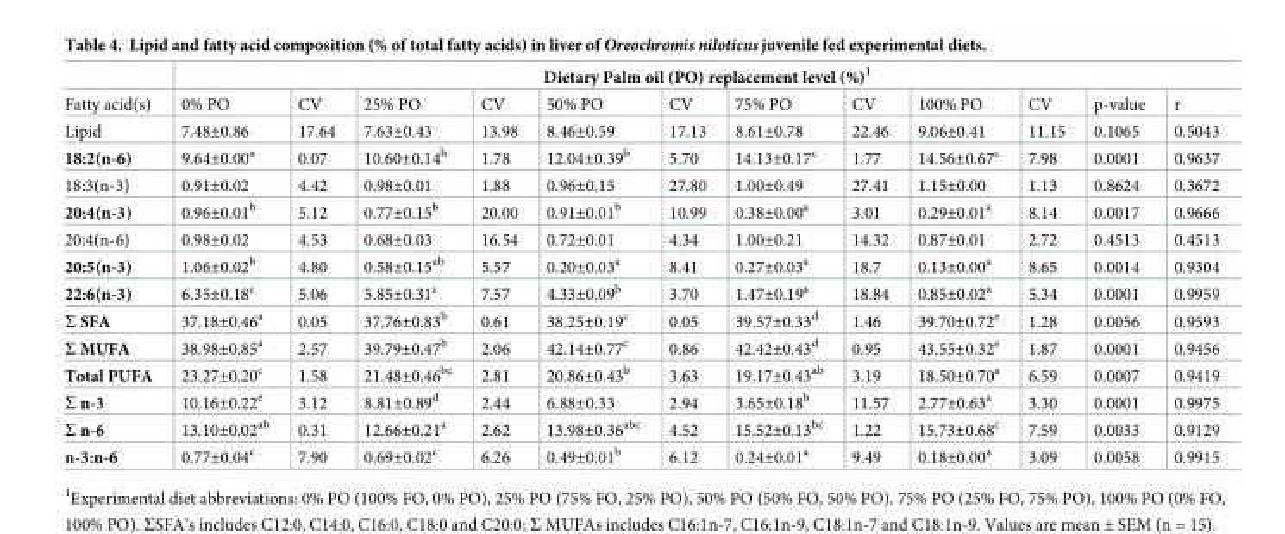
<table><thead><tr><td rowspan="2">Fatty acid(s)</td><td colspan="12">Dietary Palm oil (PO) replacement level (%)<sup>1</sup></td></tr><tr><td>0% PO</td><td>CV</td><td>25% PO</td><td>CV</td><td>50% PO</td><td>CV</td><td>75% PO</td><td>CV</td><td>100% PO</td><td>CV</td><td>p-value</td><td>r</td></tr></thead><tbody><tr><td>Lipid</td><td>7.48±0.86</td><td>17.64</td><td>7.63±0.43</td><td>13.98</td><td>8.46±0.59</td><td>17.13</td><td>8.61±0.78</td><td>22.46</td><td>9.06±0.41</td><td>11.15</td><td>0.1065</td><td>0.5043</td></tr><tr><td>18:2(n-6)</td><td>9.64±0.00<sup>a</sup></td><td>0.07</td><td>10.60±0.14<sup>b</sup></td><td>1.78</td><td>12.04±0.39<sup>b</sup></td><td>5.70</td><td>14.13±0.17<sup>c</sup></td><td>1.77</td><td>14.56±0.67<sup>c</sup></td><td>7.98</td><td>0.0001</td><td>0.9637</td></tr><tr><td>18:3(n-3)</td><td>0.91±0.02</td><td>4.42</td><td>0.98±0.01</td><td>1.88</td><td>0.96±0.15</td><td>27.80</td><td>1.00±0.49</td><td>27.41</td><td>1.15±0.00</td><td>1.13</td><td>0.8624</td><td>0.3672</td></tr><tr><td>20:4(n-3)</td><td>0.96±0.01<sup>b</sup></td><td>5.12</td><td>0.77±0.15<sup>b</sup></td><td>20.00</td><td>0.91±0.01<sup>b</sup></td><td>10.99</td><td>0.38±0.00<sup>a</sup></td><td>3.01</td><td>0.29±0.01<sup>a</sup></td><td>8.14</td><td>0.0017</td><td>0.9666</td></tr><tr><td>20:4(n-6)</td><td>0.98±0.02</td><td>4.53</td><td>0.68±0.03</td><td>16.54</td><td>0.72±0.01</td><td>4.34</td><td>1.00±0.21</td><td>14.32</td><td>0.87±0.01</td><td>2.72</td><td>0.4513</td><td>0.4513</td></tr><tr><td>20:5(n-3)</td><td>1.06±0.02<sup>b</sup></td><td>4.80</td><td>0.58±0.15<sup>ab</sup></td><td>5.57</td><td>0.20±0.03<sup>a</sup></td><td>8.41</td><td>0.27±0.03<sup>a</sup></td><td>18.7</td><td>0.13±0.00<sup>a</sup></td><td>8.65</td><td>0.0014</td><td>0.9304</td></tr><tr><td>22:6(n-3)</td><td>6.35±0.18<sup>c</sup></td><td>5.06</td><td>5.85±0.31<sup>c</sup></td><td>7.57</td><td>4.33±0.09<sup>b</sup></td><td>3.70</td><td>1.47±0.19<sup>a</sup></td><td>18.84</td><td>0.85±0.02<sup>a</sup></td><td>5.34</td><td>0.0001</td><td>0.9959</td></tr><tr><td>Σ SFA</td><td>37.18±0.46<sup>a</sup></td><td>0.05</td><td>37.76±0.83<sup>b</sup></td><td>0.61</td><td>38.25±0.19<sup>c</sup></td><td>0.05</td><td>39.57±0.33<sup>d</sup></td><td>1.46</td><td>39.70±0.72<sup>e</sup></td><td>1.28</td><td>0.0056</td><td>0.9593</td></tr><tr><td>Σ MUFA</td><td>38.98±0.85<sup>a</sup></td><td>2.57</td><td>39.79±0.47<sup>b</sup></td><td>2.06</td><td>42.14±0.77<sup>c</sup></td><td>0.86</td><td>42.42±0.43<sup>d</sup></td><td>0.95</td><td>43.55±0.32<sup>e</sup></td><td>1.87</td><td>0.0001</td><td>0.9456</td></tr><tr><td>Total PUFA</td><td>23.27±0.20<sup>c</sup></td><td>1.58</td><td>21.48±0.46<sup>bc</sup></td><td>2.81</td><td>20.86±0.43<sup>b</sup></td><td>3.63</td><td>19.17±0.43<sup>ab</sup></td><td>3.19</td><td>18.50±0.70<sup>a</sup></td><td>6.59</td><td>0.0007</td><td>0.9419</td></tr><tr><td>Σ n-3</td><td>10.16±0.22<sup>e</sup></td><td>3.12</td><td>8.81±0.89<sup>d</sup></td><td>2.44</td><td>6.88±0.33</td><td>2.94</td><td>3.65±0.18<sup>b</sup></td><td>11.57</td><td>2.77±0.63<sup>a</sup></td><td>3.30</td><td>0.0001</td><td>0.9975</td></tr><tr><td>Σ n-6</td><td>13.10±0.02<sup>ab</sup></td><td>0.31</td><td>12.66±0.21<sup>a</sup></td><td>2.62</td><td>13.98±0.36<sup>abc</sup></td><td>4.52</td><td>15.52±0.13<sup>bc</sup></td><td>1.22</td><td>15.73±0.68<sup>c</sup></td><td>7.59</td><td>0.0033</td><td>0.9129</td></tr><tr><td>n-3:n-6</td><td>0.77±0.04<sup>c</sup></td><td>7.90</td><td>0.69±0.02<sup>c</sup></td><td>6.26</td><td>0.49±0.01<sup>b</sup></td><td>6.12</td><td>0.24±0.01<sup>a</sup></td><td>9.49</td><td>0.18±0.00<sup>a</sup></td><td>3.09</td><td>0.0058</td><td>0.9915</td></tr></tbody></table>